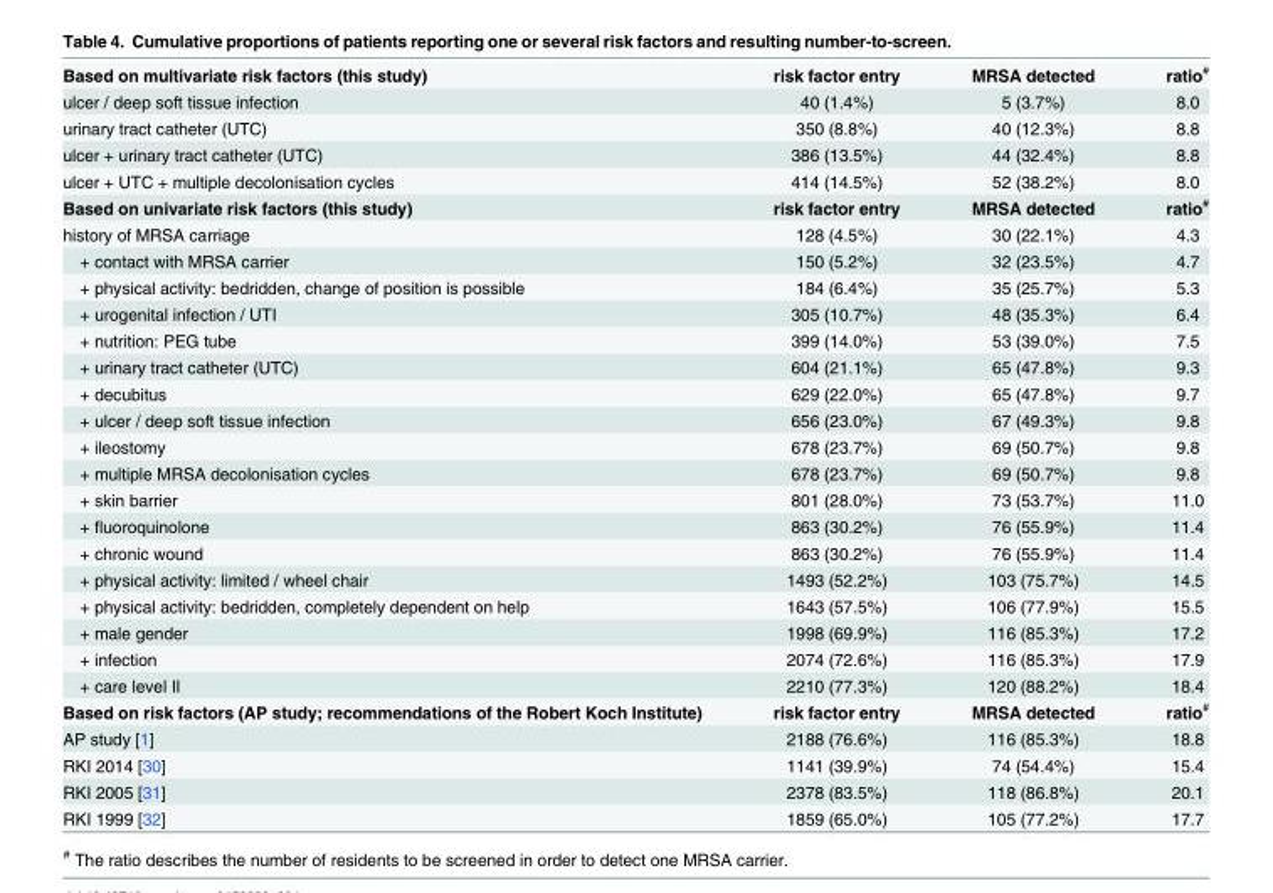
<table><tbody><tr><td>Based on multivariate risk factors (this study)</td><td>risk factor entry</td><td>MRSA detected</td><td>ratio<sup>#</sup></td></tr><tr><td>ulcer / deep soft tissue infection</td><td>40 (1.4%)</td><td>5 (3.7%)</td><td>8.0</td></tr><tr><td>urinary tract catheter (UTC)</td><td>350 (8.8%)</td><td>40 (12.3%)</td><td>8.8</td></tr><tr><td>ulcer + urinary tract catheter (UTC)</td><td>386 (13.5%)</td><td>44 (32.4%)</td><td>8.8</td></tr><tr><td>ulcer + UTC + multiple decolonisation cycles</td><td>414 (14.5%)</td><td>52 (38.2%)</td><td>8.0</td></tr><tr><td>Based on univariate risk factors (this study)</td><td>risk factor entry</td><td>MRSA detected</td><td>ratio<sup>#</sup></td></tr><tr><td>history of MRSA carriage</td><td>128 (4.5%)</td><td>30 (22.1%)</td><td>4.3</td></tr><tr><td>+ contact with MRSA carrier</td><td>150 (5.2%)</td><td>32 (23.5%)</td><td>4.7</td></tr><tr><td>+ physical activity: bedridden, change of position is possible</td><td>184 (6.4%)</td><td>35 (25.7%)</td><td>5.3</td></tr><tr><td>+ urogenital infection / UTI</td><td>305 (10.7%)</td><td>48 (35.3%)</td><td>6.4</td></tr><tr><td>+ nutrition: PEG tube</td><td>399 (14.0%)</td><td>53 (39.0%)</td><td>7.5</td></tr><tr><td>+ urinary tract catheter (UTC)</td><td>604 (21.1%)</td><td>65 (47.8%)</td><td>9.3</td></tr><tr><td>+ decubitus</td><td>629 (22.0%)</td><td>65 (47.8%)</td><td>9.7</td></tr><tr><td>+ ulcer / deep soft tissue infection</td><td>656 (23.0%)</td><td>67 (49.3%)</td><td>9.8</td></tr><tr><td>+ ileostomy</td><td>678 (23.7%)</td><td>69 (50.7%)</td><td>9.8</td></tr><tr><td>+ multiple MRSA decolonisation cycles</td><td>678 (23.7%)</td><td>69 (50.7%)</td><td>9.8</td></tr><tr><td>+ skin barrier</td><td>801 (28.0%)</td><td>73 (53.7%)</td><td>11.0</td></tr><tr><td>+ fluoroquinolone</td><td>863 (30.2%)</td><td>76 (55.9%)</td><td>11.4</td></tr><tr><td>+ chronic wound</td><td>863 (30.2%)</td><td>76 (55.9%)</td><td>11.4</td></tr><tr><td>+ physical activity: limited / wheel chair</td><td>1493 (52.2%)</td><td>103 (75.7%)</td><td>14.5</td></tr><tr><td>+ physical activity: bedridden, completely dependent on help</td><td>1643 (57.5%)</td><td>106 (77.9%)</td><td>15.5</td></tr><tr><td>+ male gender</td><td>1998 (69.9%)</td><td>116 (85.3%)</td><td>17.2</td></tr><tr><td>+ infection</td><td>2074 (72.6%)</td><td>116 (85.3%)</td><td>17.9</td></tr><tr><td>+ care level II</td><td>2210 (77.3%)</td><td>120 (88.2%)</td><td>18.4</td></tr><tr><td>Based on risk factors (AP study; recommendations of the Robert Koch Institute)</td><td>risk factor entry</td><td>MRSA detected</td><td>ratio<sup>#</sup></td></tr><tr><td>AP study [1]</td><td>2188 (76.6%)</td><td>116 (85.3%)</td><td>18.8</td></tr><tr><td>RKI 2014 [30]</td><td>1141 (39.9%)</td><td>74 (54.4%)</td><td>15.4</td></tr><tr><td>RKI 2005 [31]</td><td>2378 (83.5%)</td><td>118 (86.8%)</td><td>20.1</td></tr><tr><td>RKI 1999 [32]</td><td>1859 (65.0%)</td><td>105 (77.2%)</td><td>17.7</td></tr></tbody></table>